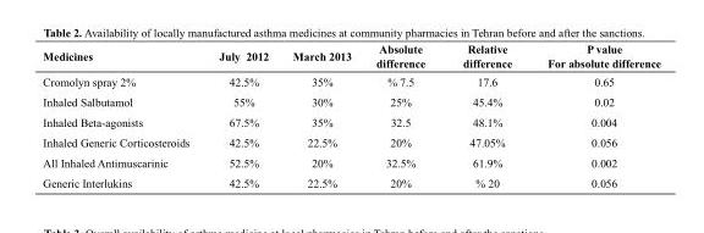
<table><thead><tr><td>P value For absolute difference</td><td>Relative difference</td><td>Absolute difference</td><td>March 2013</td><td>July 2012</td><td>Medicines</td></tr></thead><tbody><tr><td>0.65</td><td>17.6</td><td>% 7.5</td><td>35%</td><td>42.5%</td><td>Cromolyn spray 2%</td></tr><tr><td>0.02</td><td>45.4%</td><td>25%</td><td>30%</td><td>55%</td><td>Inhaled Salbutamol</td></tr><tr><td>0.004</td><td>48.1%</td><td>32.5</td><td>35%</td><td>67.5%</td><td>Inhaled Beta-agonists</td></tr><tr><td>0.056</td><td>47.05%</td><td>20%</td><td>22.5%</td><td>42.5%</td><td>Inhaled Generic Corticosteroids</td></tr><tr><td>0.002</td><td>61.9%</td><td>32.5%</td><td>20%</td><td>52.5%</td><td>All Inhaled Antimuscarinic</td></tr><tr><td>0.056</td><td>% 20</td><td>20%</td><td>22.5%</td><td>42.5%</td><td>Generic Interlukins</td></tr></tbody></table>